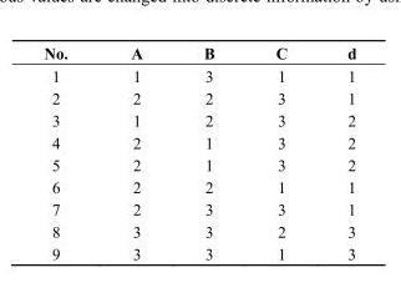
<table><thead><tr><td>No.</td><td>A</td><td>B</td><td>C</td><td>d</td></tr></thead><tbody><tr><td>1</td><td>1</td><td>3</td><td>1</td><td>1</td></tr><tr><td>2</td><td>2</td><td>2</td><td>3</td><td>1</td></tr><tr><td>3</td><td>1</td><td>2</td><td>3</td><td>2</td></tr><tr><td>4</td><td>2</td><td>1</td><td>3</td><td>2</td></tr><tr><td>5</td><td>2</td><td>1</td><td>3</td><td>2</td></tr><tr><td>6</td><td>2</td><td>2</td><td>1</td><td>1</td></tr><tr><td>7</td><td>2</td><td>3</td><td>3</td><td>1</td></tr><tr><td>8</td><td>3</td><td>3</td><td>2</td><td>3</td></tr><tr><td>9</td><td>3</td><td>3</td><td>1</td><td>3</td></tr></tbody></table>